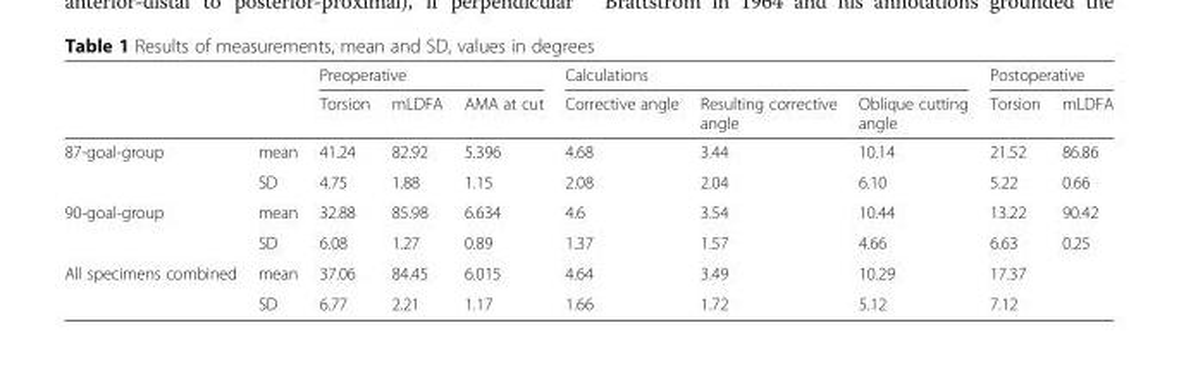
<table><thead><tr><td rowspan="2"></td><td rowspan="2"></td><td colspan="3">Preoperative</td><td colspan="3">Calculations</td><td colspan="2">Postoperative</td></tr><tr><td>Torsion</td><td>mLDFA</td><td>AMA at cut</td><td>Corrective angle</td><td>Resulting corrective angle</td><td>Oblique cutting angle</td><td>Torsion</td><td>mLDFA</td></tr></thead><tbody><tr><td rowspan="2">87-goal-group</td><td>mean</td><td>41.24</td><td>82.92</td><td>5.396</td><td>4.68</td><td>3.44</td><td>10.14</td><td>21.52</td><td>86.86</td></tr><tr><td>SD</td><td>4.75</td><td>1.88</td><td>1.15</td><td>2.08</td><td>2.04</td><td>6.10</td><td>5.22</td><td>0.66</td></tr><tr><td rowspan="2">90-goal-group</td><td>mean</td><td>32.88</td><td>85.98</td><td>6.634</td><td>4.6</td><td>3.54</td><td>10.44</td><td>13.22</td><td>90.42</td></tr><tr><td>SD</td><td>6.08</td><td>1.27</td><td>0.89</td><td>1.37</td><td>1.57</td><td>4.66</td><td>6.63</td><td>0.25</td></tr><tr><td rowspan="2">All specimens combined</td><td>mean</td><td>37.06</td><td>84.45</td><td>6.015</td><td>4.64</td><td>3.49</td><td>10.29</td><td>17.37</td><td></td></tr><tr><td>SD</td><td>6.77</td><td>2.21</td><td>1.17</td><td>1.66</td><td>1.72</td><td>5.12</td><td>7.12</td><td></td></tr></tbody></table>